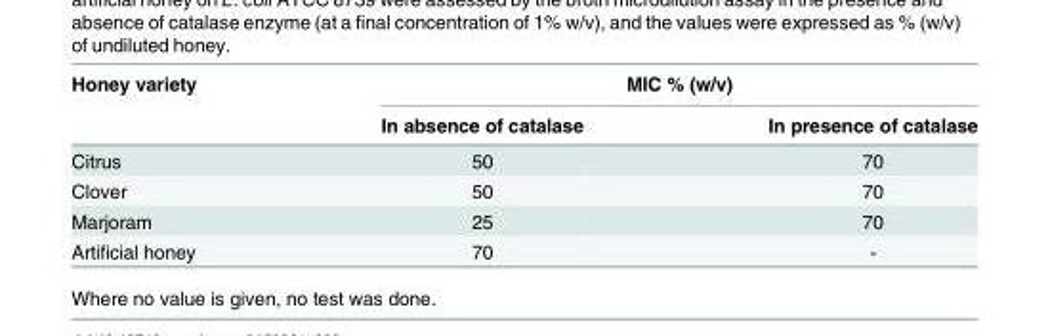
<table><thead><tr><td rowspan="2">Honey variety</td><td colspan="2">MIC % (w/v)</td></tr><tr><td>In absence of catalase</td><td>In presence of catalase</td></tr></thead><tbody><tr><td>Citrus</td><td>50</td><td>70</td></tr><tr><td>Clover</td><td>50</td><td>70</td></tr><tr><td>Marjoram</td><td>25</td><td>70</td></tr><tr><td>Artificial honey</td><td>70</td><td>-</td></tr></tbody></table>